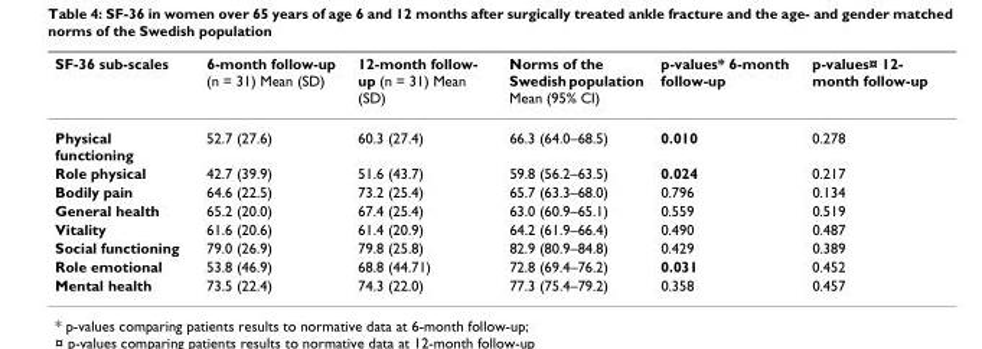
<table><thead><tr><td>SF-36 sub-scales</td><td>6-month follow-up (n = 31) Mean (SD)</td><td>12-month follow- up (n = 31) Mean (SD)</td><td>Norms of the Swedish population Mean (95% CI)</td><td>p-values* 6-month follow-up</td><td>p-values¤ 12- month follow-up</td></tr></thead><tbody><tr><td>Physical functioning</td><td>52.7 (27.6)</td><td>60.3 (27.4)</td><td>66.3 (64.0–68.5)</td><td>0.010</td><td>0.278</td></tr><tr><td>Role physical</td><td>42.7 (39.9)</td><td>51.6 (43.7)</td><td>59.8 (56.2–63.5)</td><td>0.024</td><td>0.217</td></tr><tr><td>Bodily pain</td><td>64.6 (22.5)</td><td>73.2 (25.4)</td><td>65.7 (63.3–68.0)</td><td>0.796</td><td>0.134</td></tr><tr><td>General health</td><td>65.2 (20.0)</td><td>67.4 (25.4)</td><td>63.0 (60.9–65.1)</td><td>0.559</td><td>0.519</td></tr><tr><td>Vitality</td><td>61.6 (20.6)</td><td>61.4 (20.9)</td><td>64.2 (61.9–66.4)</td><td>0.490</td><td>0.487</td></tr><tr><td>Social functioning</td><td>79.0 (26.9)</td><td>79.8 (25.8)</td><td>82.9 (80.9–84.8)</td><td>0.429</td><td>0.389</td></tr><tr><td>Role emotional</td><td>53.8 (46.9)</td><td>68.8 (44.71)</td><td>72.8 (69.4–76.2)</td><td>0.031</td><td>0.452</td></tr><tr><td>Mental health</td><td>73.5 (22.4)</td><td>74.3 (22.0)</td><td>77.3 (75.4–79.2)</td><td>0.358</td><td>0.457</td></tr></tbody></table>